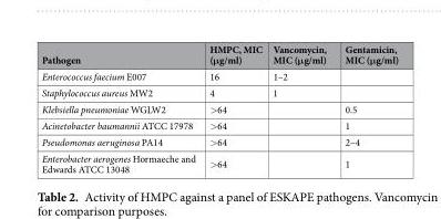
<table><thead><tr><td>Pathogen</td><td>HMPC, MIC (μg/ml)</td><td>Vancomycin, MIC (μg/ml)</td><td>Gentamicin, MIC (μg/ml)</td></tr></thead><tbody><tr><td>Enterococcus faecium E007</td><td>16</td><td>1–2</td><td></td></tr><tr><td>Staphylococcus aureus MW2</td><td>4</td><td>1</td><td></td></tr><tr><td>Klebsiella pneumoniae WGLW2</td><td>&gt;64</td><td></td><td>0.5</td></tr><tr><td>Acinetobacter baumannii ATCC 17978</td><td>&gt;64</td><td></td><td>1</td></tr><tr><td>Pseudomonas aeruginosa PA14</td><td>&gt;64</td><td></td><td>2–4</td></tr><tr><td>Enterobacter aerogenes Hormaeche and Edwards ATCC 13048</td><td>&gt;64</td><td></td><td>1</td></tr></tbody></table>